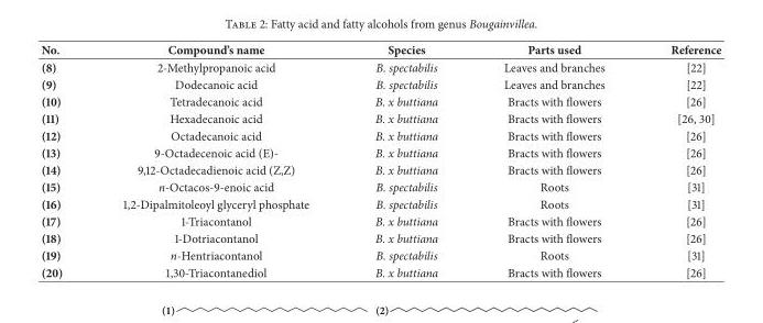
<table><thead><tr><td>No.</td><td>Compound’s name</td><td>Species</td><td>Parts used</td><td>Reference</td></tr></thead><tbody><tr><td>(8)</td><td>2-Methylpropanoic acid</td><td>B. spectabilis</td><td>Leaves and branches</td><td>[22]</td></tr><tr><td>(9)</td><td>Dodecanoic acid</td><td>B. spectabilis</td><td>Leaves and branches</td><td>[22]</td></tr><tr><td>(10)</td><td>Tetradecanoic acid</td><td>B. x buttiana</td><td>Bracts with flowers</td><td>[26]</td></tr><tr><td>(11)</td><td>Hexadecanoic acid</td><td>B. x buttiana</td><td>Bracts with flowers</td><td>[26, 30]</td></tr><tr><td>(12)</td><td>Octadecanoic acid</td><td>B. x buttiana</td><td>Bracts with flowers</td><td>[26]</td></tr><tr><td>(13)</td><td>9-Octadecenoic acid (E)-</td><td>B. x buttiana</td><td>Bracts with flowers</td><td>[26]</td></tr><tr><td>(14)</td><td>9,12-Octadecadienoic acid (Z,Z)</td><td>B. x buttiana</td><td>Bracts with flowers</td><td>[26]</td></tr><tr><td>(15)</td><td>n-Octacos-9-enoic acid</td><td>B. spectabilis</td><td>Roots</td><td>[31]</td></tr><tr><td>(16)</td><td>1,2-Dipalmitoleoyl glyceryl phosphate</td><td>B. spectabilis</td><td>Roots</td><td>[31]</td></tr><tr><td>(17)</td><td>1-Triacontanol</td><td>B. x buttiana</td><td>Bracts with flowers</td><td>[26]</td></tr><tr><td>(18)</td><td>1-Dotriacontanol</td><td>B. x buttiana</td><td>Bracts with flowers</td><td>[26]</td></tr><tr><td>(19)</td><td>n-Hentriacontanol</td><td>B. spectabilis</td><td>Roots</td><td>[31]</td></tr><tr><td>(20)</td><td>1,30-Triacontanediol</td><td>B. x buttiana</td><td>Bracts with flowers</td><td>[26]</td></tr></tbody></table>